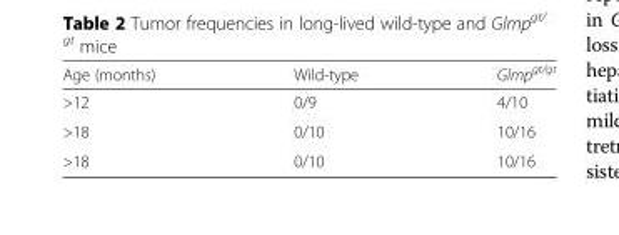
<table><thead><tr><td>Age (months)</td><td>Wild-type</td><td>Glmp<sup>gt/gt</sup></td></tr></thead><tbody><tr><td>&gt;12</td><td>0/9</td><td>4/10</td></tr><tr><td>&gt;18</td><td>0/10</td><td>10/16</td></tr><tr><td>&gt;18</td><td>0/10</td><td>10/16</td></tr></tbody></table>